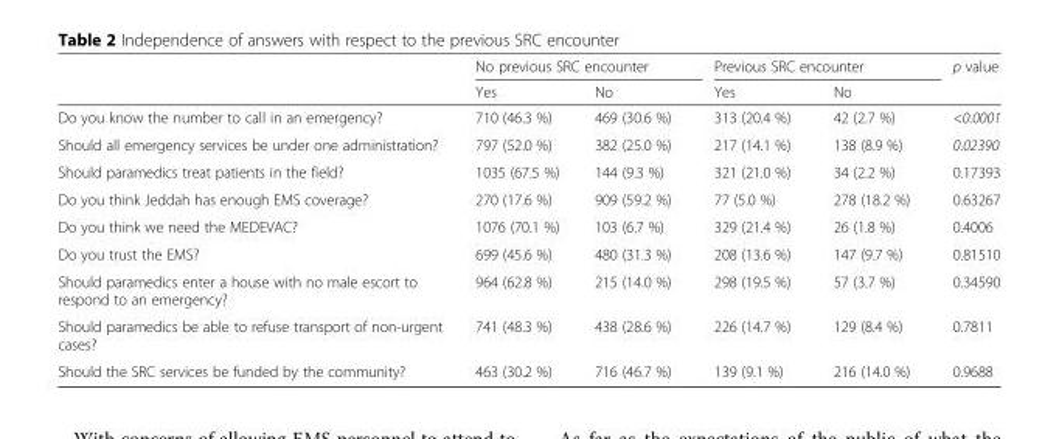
<table><thead><tr><td rowspan="2"></td><td colspan="2">No previous SRC encounter</td><td colspan="2">Previous SRC encounter</td><td rowspan="2">p value</td></tr><tr><td>Yes</td><td>No</td><td>Yes</td><td>No</td></tr></thead><tbody><tr><td>Do you know the number to call in an emergency?</td><td>710 (46.3 %)</td><td>469 (30.6 %)</td><td>313 (20.4 %)</td><td>42 (2.7 %)</td><td>&lt;0.0001</td></tr><tr><td>Should all emergency services be under one administration?</td><td>797 (52.0 %)</td><td>382 (25.0 %)</td><td>217 (14.1 %)</td><td>138 (8.9 %)</td><td>0.02390</td></tr><tr><td>Should paramedics treat patients in the field?</td><td>1035 (67.5 %)</td><td>144 (9.3 %)</td><td>321 (21.0 %)</td><td>34 (2.2 %)</td><td>0.17393</td></tr><tr><td>Do you think Jeddah has enough EMS coverage?</td><td>270 (17.6 %)</td><td>909 (59.2 %)</td><td>77 (5.0 %)</td><td>278 (18.2 %)</td><td>0.63267</td></tr><tr><td>Do you think we need the MEDEVAC?</td><td>1076 (70.1 %)</td><td>103 (6.7 %)</td><td>329 (21.4 %)</td><td>26 (1.8 %)</td><td>0.4006</td></tr><tr><td>Do you trust the EMS?</td><td>699 (45.6 %)</td><td>480 (31.3 %)</td><td>208 (13.6 %)</td><td>147 (9.7 %)</td><td>0.81510</td></tr><tr><td>Should paramedics enter a house with no male escort to respond to an emergency?</td><td>964 (62.8 %)</td><td>215 (14.0 %)</td><td>298 (19.5 %)</td><td>57 (3.7 %)</td><td>0.34590</td></tr><tr><td>Should paramedics be able to refuse transport of non-urgent cases?</td><td>741 (48.3 %)</td><td>438 (28.6 %)</td><td>226 (14.7 %)</td><td>129 (8.4 %)</td><td>0.7811</td></tr><tr><td>Should the SRC services be funded by the community?</td><td>463 (30.2 %)</td><td>716 (46.7 %)</td><td>139 (9.1 %)</td><td>216 (14.0 %)</td><td>0.9688</td></tr></tbody></table>